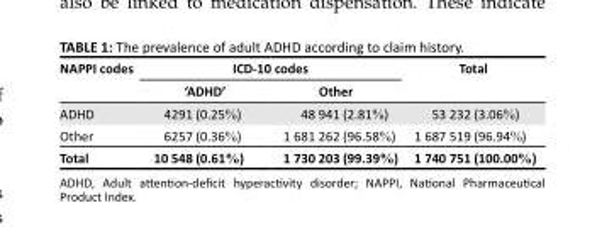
<table><thead><tr><td rowspan="2">NAPPI codes</td><td colspan="2">ICD-10 codes</td><td rowspan="2">Total</td></tr><tr><td>‘ADHD’</td><td>Other</td></tr></thead><tbody><tr><td>ADHD</td><td>4291 (0.25%)</td><td>48 941 (2.81%)</td><td>53 232 (3.06%)</td></tr><tr><td>Other</td><td>6257 (0.36%)</td><td>1 681 262 (96.58%)</td><td>1 687 519 (96.94%)</td></tr><tr><td>Total</td><td>10 548 (0.61%)</td><td>1 730 203 (99.39%)</td><td>1 740 751 (100.00%)</td></tr></tbody></table>